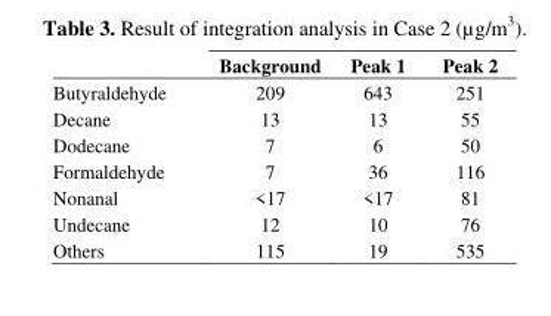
<table><thead><tr><td></td><td>Background</td><td>Peak 1</td><td>Peak 2</td></tr></thead><tbody><tr><td>Butyraldehyde</td><td>209</td><td>643</td><td>251</td></tr><tr><td>Decane</td><td>13</td><td>13</td><td>55</td></tr><tr><td>Dodecane</td><td>7</td><td>6</td><td>50</td></tr><tr><td>Formaldehyde</td><td>7</td><td>36</td><td>116</td></tr><tr><td>Nonanal</td><td>&lt;17</td><td>&lt;17</td><td>81</td></tr><tr><td>Undecane</td><td>12</td><td>10</td><td>76</td></tr><tr><td>Others</td><td>115</td><td>19</td><td>535</td></tr></tbody></table>